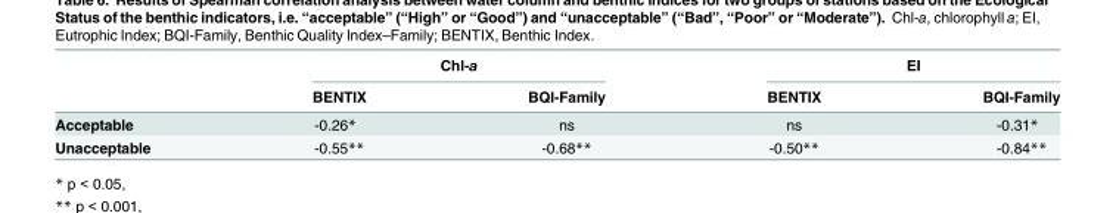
<table><thead><tr><td rowspan="2"></td><td colspan="2">Chl-a</td><td colspan="2">EI</td></tr><tr><td>BENTIX</td><td>BQI-Family</td><td>BENTIX</td><td>BQI-Family</td></tr></thead><tbody><tr><td>Acceptable</td><td>-0.26*</td><td>ns</td><td>ns</td><td>-0.31*</td></tr><tr><td>Unacceptable</td><td>-0.55**</td><td>-0.68**</td><td>-0.50**</td><td>-0.84**</td></tr></tbody></table>